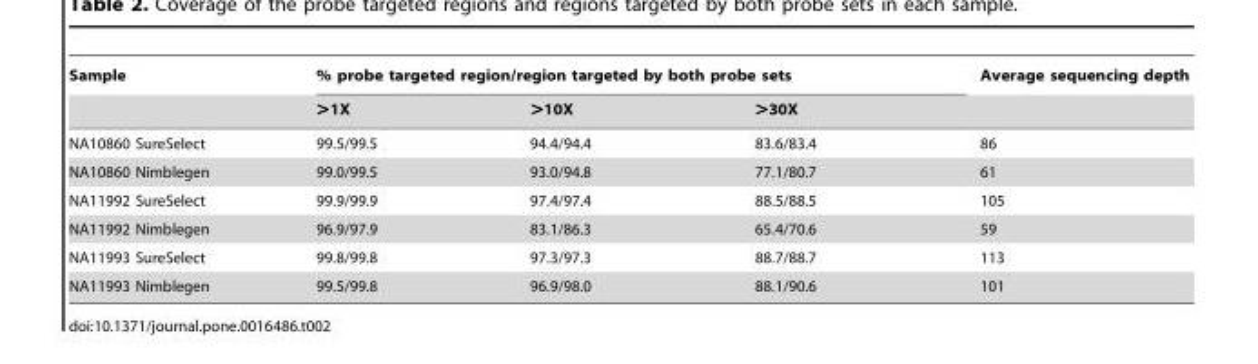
<table><thead><tr><td rowspan="2">Sample</td><td colspan="3">% probe targeted region/region targeted by both probe sets</td><td rowspan="2">Average sequencing depth</td></tr><tr><td>&gt;1X</td><td>&gt;10X</td><td>&gt;30X</td></tr></thead><tbody><tr><td>NA10860 SureSelect</td><td>99.5/99.5</td><td>94.4/94.4</td><td>83.6/83.4</td><td>86</td></tr><tr><td>NA10860 Nimblegen</td><td>99.0/99.5</td><td>93.0/94.8</td><td>77.1/80.7</td><td>61</td></tr><tr><td>NA11992 SureSelect</td><td>99.9/99.9</td><td>97.4/97.4</td><td>88.5/88.5</td><td>105</td></tr><tr><td>NA11992 Nimblegen</td><td>96.9/97.9</td><td>83.1/86.3</td><td>65.4/70.6</td><td>59</td></tr><tr><td>NA11993 SureSelect</td><td>99.8/99.8</td><td>97.3/97.3</td><td>88.7/88.7</td><td>113</td></tr><tr><td>NA11993 Nimblegen</td><td>99.5/99.8</td><td>96.9/98.0</td><td>88.1/90.6</td><td>101</td></tr></tbody></table>